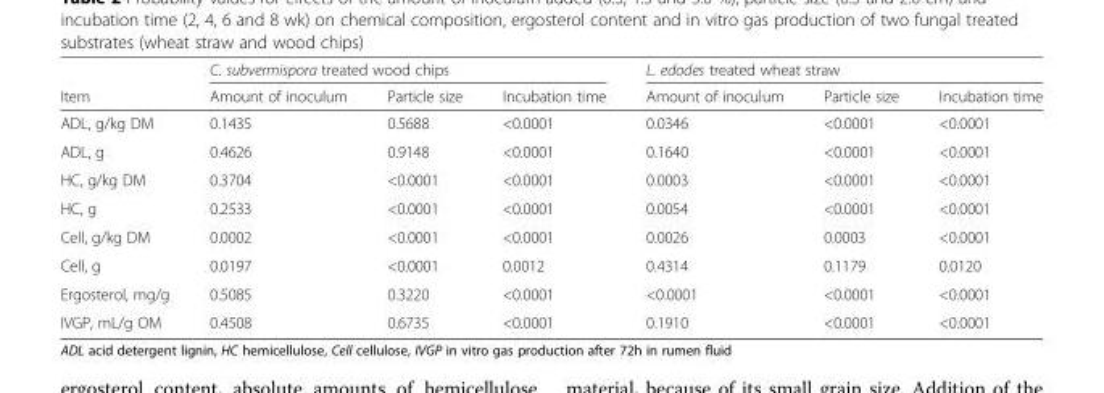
<table><thead><tr><td rowspan="2">Item</td><td colspan="3">C. subvermispora treated wood chips</td><td colspan="3">L. edodes treated wheat straw</td></tr><tr><td>Amount of inoculum</td><td>Particle size</td><td>Incubation time</td><td>Amount of inoculum</td><td>Particle size</td><td>Incubation time</td></tr></thead><tbody><tr><td>ADL, g/kg DM</td><td>0.1435</td><td>0.5688</td><td>&lt;0.0001</td><td>0.0346</td><td>&lt;0.0001</td><td>&lt;0.0001</td></tr><tr><td>ADL, g</td><td>0.4626</td><td>0.9148</td><td>&lt;0.0001</td><td>0.1640</td><td>&lt;0.0001</td><td>&lt;0.0001</td></tr><tr><td>HC, g/kg DM</td><td>0.3704</td><td>&lt;0.0001</td><td>&lt;0.0001</td><td>0.0003</td><td>&lt;0.0001</td><td>&lt;0.0001</td></tr><tr><td>HC, g</td><td>0.2533</td><td>&lt;0.0001</td><td>&lt;0.0001</td><td>0.0054</td><td>&lt;0.0001</td><td>&lt;0.0001</td></tr><tr><td>Cell, g/kg DM</td><td>0.0002</td><td>&lt;0.0001</td><td>&lt;0.0001</td><td>0.0026</td><td>0.0003</td><td>&lt;0.0001</td></tr><tr><td>Cell, g</td><td>0.0197</td><td>&lt;0.0001</td><td>0.0012</td><td>0.4314</td><td>0.1179</td><td>0.0120</td></tr><tr><td>Ergosterol, mg/g</td><td>0.5085</td><td>0.3220</td><td>&lt;0.0001</td><td>&lt;0.0001</td><td>&lt;0.0001</td><td>&lt;0.0001</td></tr><tr><td>IVGP, mL/g OM</td><td>0.4508</td><td>0.6735</td><td>&lt;0.0001</td><td>0.1910</td><td>&lt;0.0001</td><td>&lt;0.0001</td></tr></tbody></table>